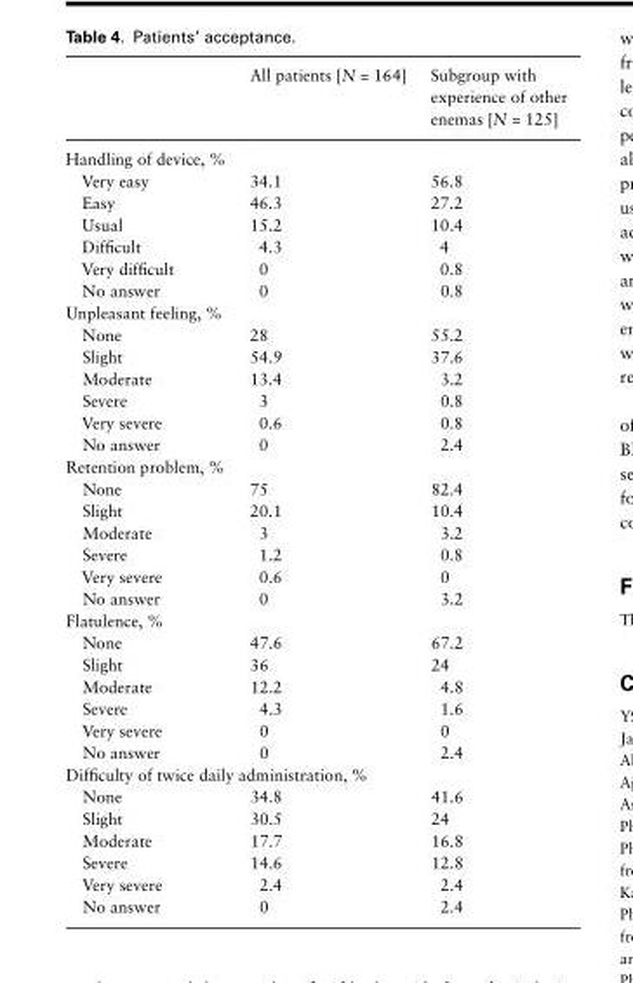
<table><thead><tr><td></td><td>All patients [N = 164]</td><td>Subgroup with experience of other enemas [N = 125]</td></tr></thead><tbody><tr><td colspan="3">Handling of device, %</td></tr><tr><td>Very easy</td><td>34.1</td><td>56.8</td></tr><tr><td>Easy</td><td>46.3</td><td>27.2</td></tr><tr><td>Usual</td><td>15.2</td><td>10.4</td></tr><tr><td>Difficult</td><td>4.3</td><td>4</td></tr><tr><td>Very difficult</td><td>0</td><td>0.8</td></tr><tr><td>No answer</td><td>0</td><td>0.8</td></tr><tr><td colspan="3">Unpleasant feeling, %</td></tr><tr><td>None</td><td>28</td><td>55.2</td></tr><tr><td>Slight</td><td>54.9</td><td>37.6</td></tr><tr><td>Moderate</td><td>13.4</td><td>3.2</td></tr><tr><td>Severe</td><td>3</td><td>0.8</td></tr><tr><td>Very severe</td><td>0.6</td><td>0.8</td></tr><tr><td>No answer</td><td>0</td><td>2.4</td></tr><tr><td colspan="3">Retention problem, %</td></tr><tr><td>None</td><td>75</td><td>82.4</td></tr><tr><td>Slight</td><td>20.1</td><td>10.4</td></tr><tr><td>Moderate</td><td>3</td><td>3.2</td></tr><tr><td>Severe</td><td>1.2</td><td>0.8</td></tr><tr><td>Very severe</td><td>0.6</td><td>0</td></tr><tr><td>No answer</td><td>0</td><td>3.2</td></tr><tr><td colspan="3">Flatulence, %</td></tr><tr><td>None</td><td>47.6</td><td>67.2</td></tr><tr><td>Slight</td><td>36</td><td>24</td></tr><tr><td>Moderate</td><td>12.2</td><td>4.8</td></tr><tr><td>Severe</td><td>4.3</td><td>1.6</td></tr><tr><td>Very severe</td><td>0</td><td>0</td></tr><tr><td>No answer</td><td>0</td><td>2.4</td></tr><tr><td colspan="3">Difficulty of twice daily administration, %</td></tr><tr><td>None</td><td>34.8</td><td>41.6</td></tr><tr><td>Slight</td><td>30.5</td><td>24</td></tr><tr><td>Moderate</td><td>17.7</td><td>16.8</td></tr><tr><td>Severe</td><td>14.6</td><td>12.8</td></tr><tr><td>Very severe</td><td>2.4</td><td>2.4</td></tr><tr><td>No answer</td><td>0</td><td>2.4</td></tr></tbody></table>